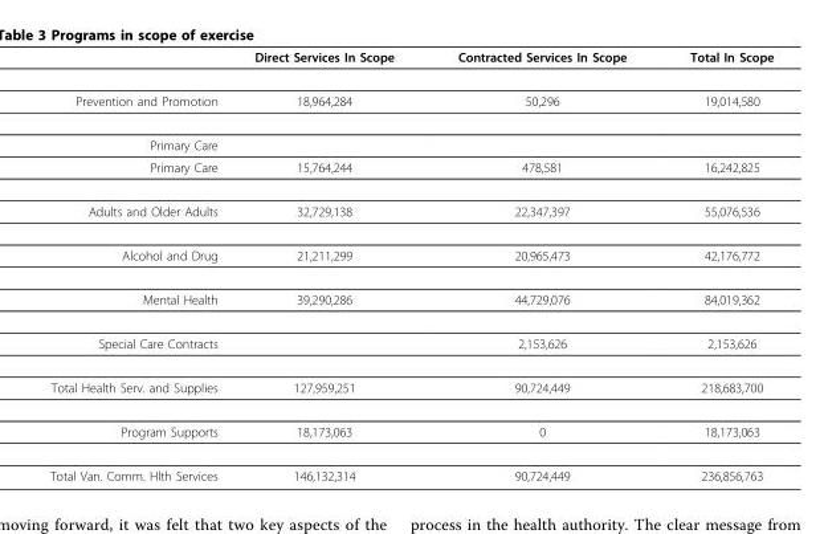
<table><thead><tr><td></td><td>Direct Services In Scope</td><td>Contracted Services In Scope</td><td>Total In Scope</td></tr></thead><tbody><tr><td>Prevention and Promotion</td><td>18,964,284</td><td>50,296</td><td>19,014,580</td></tr><tr><td colspan="4">Primary Care</td></tr><tr><td>Primary Care</td><td>15,764,244</td><td>478,581</td><td>16,242,825</td></tr><tr><td>Adults and Older Adults</td><td>32,729,138</td><td>22,347,397</td><td>55,076,536</td></tr><tr><td>Alcohol and Drug</td><td>21,211,299</td><td>20,965,473</td><td>42,176,772</td></tr><tr><td>Mental Health</td><td>39,290,286</td><td>44,729,076</td><td>84,019,362</td></tr><tr><td>Special Care Contracts</td><td></td><td>2,153,626</td><td>2,153,626</td></tr><tr><td>Total Health Serv. and Supplies</td><td>127,959,251</td><td>90,724,449</td><td>218,683,700</td></tr><tr><td>Program Supports</td><td>18,173,063</td><td>0</td><td>18,173,063</td></tr><tr><td>Total Van. Comm. Hlth Services</td><td>146,132,314</td><td>90,724,449</td><td>236,856,763</td></tr></tbody></table>